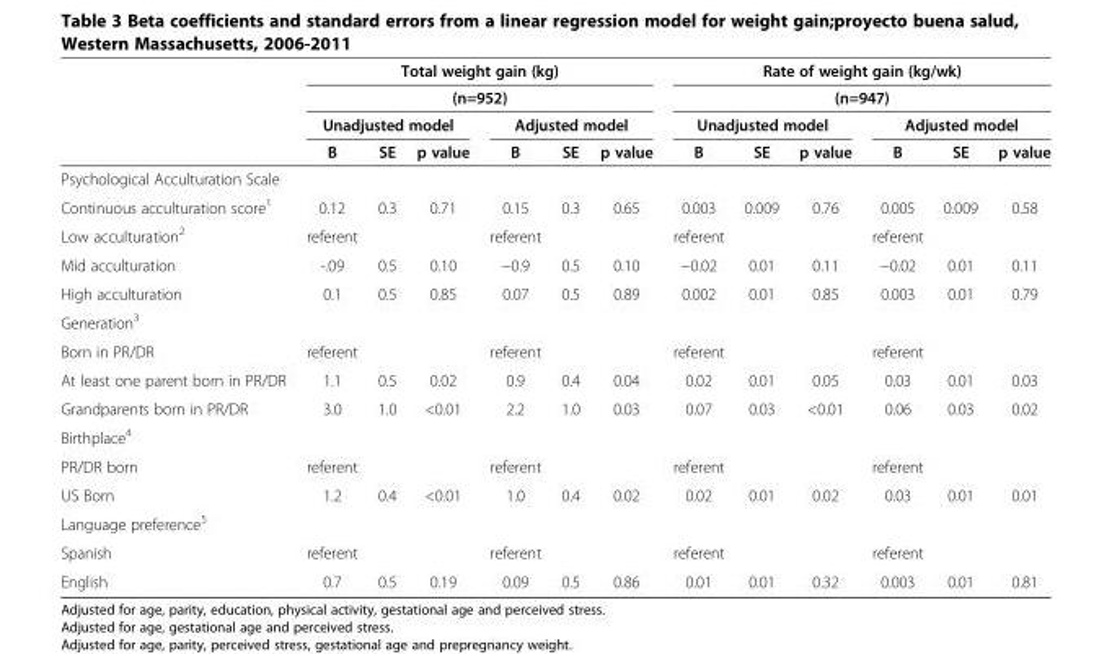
<table><thead><tr><td rowspan="4"></td><td rowspan="2" colspan="6">Total weight gain (kg) (n=952)</td><td rowspan="2" colspan="6">Rate of weight gain (kg/wk) (n=947)</td></tr><tr></tr><tr><td colspan="3">Unadjusted model</td><td colspan="3">Adjusted model</td><td colspan="3">Unadjusted model</td><td colspan="3">Adjusted model</td></tr><tr><td>B</td><td>SE</td><td>p value</td><td>B</td><td>SE</td><td>p value</td><td>B</td><td>SE</td><td>p value</td><td>B</td><td>SE</td><td>p value</td></tr></thead><tbody><tr><td colspan="13">Psychological Acculturation Scale</td></tr><tr><td>Continuous acculturation score<sup>1</sup></td><td>0.12</td><td>0.3</td><td>0.71</td><td>0.15</td><td>0.3</td><td>0.65</td><td>0.003</td><td>0.009</td><td>0.76</td><td>0.005</td><td>0.009</td><td>0.58</td></tr><tr><td>Low acculturation<sup>2</sup></td><td>referent</td><td></td><td></td><td>referent</td><td></td><td></td><td>referent</td><td></td><td></td><td>referent</td><td></td><td></td></tr><tr><td>Mid acculturation</td><td>-.09</td><td>0.5</td><td>0.10</td><td>−0.9</td><td>0.5</td><td>0.10</td><td>−0.02</td><td>0.01</td><td>0.11</td><td>−0.02</td><td>0.01</td><td>0.11</td></tr><tr><td>High acculturation</td><td>0.1</td><td>0.5</td><td>0.85</td><td>0.07</td><td>0.5</td><td>0.89</td><td>0.002</td><td>0.01</td><td>0.85</td><td>0.003</td><td>0.01</td><td>0.79</td></tr><tr><td colspan="13">Generation<sup>3</sup></td></tr><tr><td>Born in PR/DR</td><td>referent</td><td></td><td></td><td>referent</td><td></td><td></td><td>referent</td><td></td><td></td><td>referent</td><td></td><td></td></tr><tr><td>At least one parent born in PR/DR</td><td>1.1</td><td>0.5</td><td>0.02</td><td>0.9</td><td>0.4</td><td>0.04</td><td>0.02</td><td>0.01</td><td>0.05</td><td>0.03</td><td>0.01</td><td>0.03</td></tr><tr><td>Grandparents born in PR/DR</td><td>3.0</td><td>1.0</td><td>&lt;0.01</td><td>2.2</td><td>1.0</td><td>0.03</td><td>0.07</td><td>0.03</td><td>&lt;0.01</td><td>0.06</td><td>0.03</td><td>0.02</td></tr><tr><td colspan="13">Birthplace<sup>4</sup></td></tr><tr><td>PR/DR born</td><td>referent</td><td></td><td></td><td>referent</td><td></td><td></td><td>referent</td><td></td><td></td><td>referent</td><td></td><td></td></tr><tr><td>US Born</td><td>1.2</td><td>0.4</td><td>&lt;0.01</td><td>1.0</td><td>0.4</td><td>0.02</td><td>0.02</td><td>0.01</td><td>0.02</td><td>0.03</td><td>0.01</td><td>0.01</td></tr><tr><td colspan="13">Language preference<sup>5</sup></td></tr><tr><td>Spanish</td><td>referent</td><td></td><td></td><td>referent</td><td></td><td></td><td>referent</td><td></td><td></td><td>referent</td><td></td><td></td></tr><tr><td>English</td><td>0.7</td><td>0.5</td><td>0.19</td><td>0.09</td><td>0.5</td><td>0.86</td><td>0.01</td><td>0.01</td><td>0.32</td><td>0.003</td><td>0.01</td><td>0.81</td></tr></tbody></table>